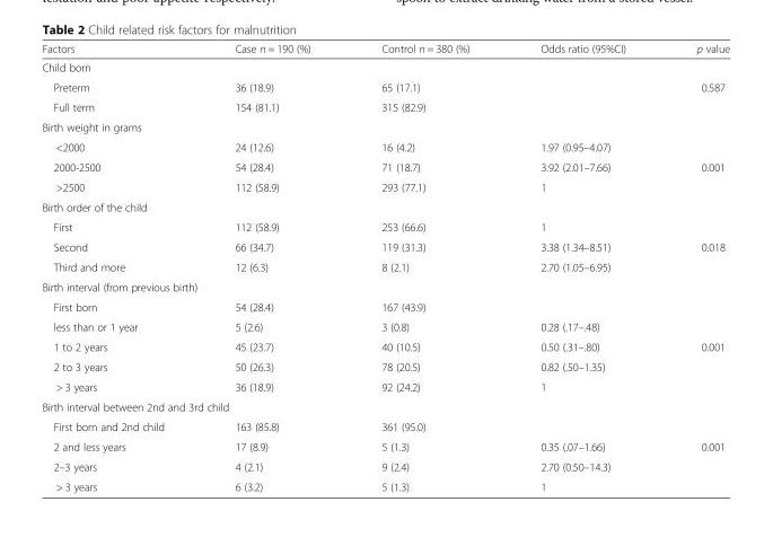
<table><thead><tr><td>Factors</td><td>Case n = 190 (%)</td><td>Control n = 380 (%)</td><td>Odds ratio (95%CI)</td><td>p value</td></tr></thead><tbody><tr><td colspan="5">Child born</td></tr><tr><td>Preterm</td><td>36 (18.9)</td><td>65 (17.1)</td><td></td><td rowspan="2">0.587</td></tr><tr><td>Full term</td><td>154 (81.1)</td><td>315 (82.9)</td><td></td></tr><tr><td colspan="5">Birth weight in grams</td></tr><tr><td>&lt;2000</td><td>24 (12.6)</td><td>16 (4.2)</td><td>1.97 (0.95–4.07)</td><td></td></tr><tr><td>2000-2500</td><td>54 (28.4)</td><td>71 (18.7)</td><td>3.92 (2.01–7.66)</td><td>0.001</td></tr><tr><td>&gt;2500</td><td>112 (58.9)</td><td>293 (77.1)</td><td>1</td><td></td></tr><tr><td colspan="5">Birth order of the child</td></tr><tr><td>First</td><td>112 (58.9)</td><td>253 (66.6)</td><td>1</td><td></td></tr><tr><td>Second</td><td>66 (34.7)</td><td>119 (31.3)</td><td>3.38 (1.34–8.51)</td><td>0.018</td></tr><tr><td>Third and more</td><td>12 (6.3)</td><td>8 (2.1)</td><td>2.70 (1.05–6.95)</td><td></td></tr><tr><td colspan="5">Birth interval (from previous birth)</td></tr><tr><td>First born</td><td>54 (28.4)</td><td>167 (43.9)</td><td></td><td></td></tr><tr><td>less than or 1 year</td><td>5 (2.6)</td><td>3 (0.8)</td><td>0.28 (.17–.48)</td><td></td></tr><tr><td>1 to 2 years</td><td>45 (23.7)</td><td>40 (10.5)</td><td>0.50 (.31–.80)</td><td>0.001</td></tr><tr><td>2 to 3 years</td><td>50 (26.3)</td><td>78 (20.5)</td><td>0.82 (.50–1.35)</td><td></td></tr><tr><td>&gt; 3 years</td><td>36 (18.9)</td><td>92 (24.2)</td><td>1</td><td></td></tr><tr><td colspan="5">Birth interval between 2nd and 3rd child</td></tr><tr><td>First born and 2nd child</td><td>163 (85.8)</td><td>361 (95.0)</td><td></td><td></td></tr><tr><td>2 and less years</td><td>17 (8.9)</td><td>5 (1.3)</td><td>0.35 (.07–1.66)</td><td>0.001</td></tr><tr><td>2–3 years</td><td>4 (2.1)</td><td>9 (2.4)</td><td>2.70 (0.50–14.3)</td><td></td></tr><tr><td>&gt; 3 years</td><td>6 (3.2)</td><td>5 (1.3)</td><td>1</td><td></td></tr></tbody></table>